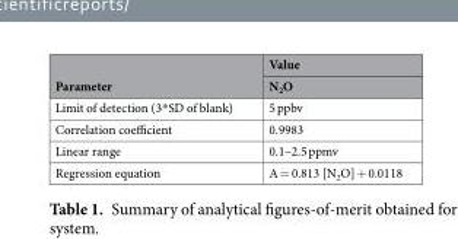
<table><thead><tr><td rowspan="2">Parameter</td><td rowspan="2">Value N<sub>2</sub>O</td></tr><tr></tr></thead><tbody><tr><td>Limit of detection (3*SD of blank)</td><td>5 ppbv</td></tr><tr><td>Correlation coefficient</td><td>0.9983</td></tr><tr><td>Linear range</td><td>0.1–2.5 ppmv</td></tr><tr><td>Regression equation</td><td>A = 0.813 [N<sub>2</sub>O] + 0.0118</td></tr></tbody></table>